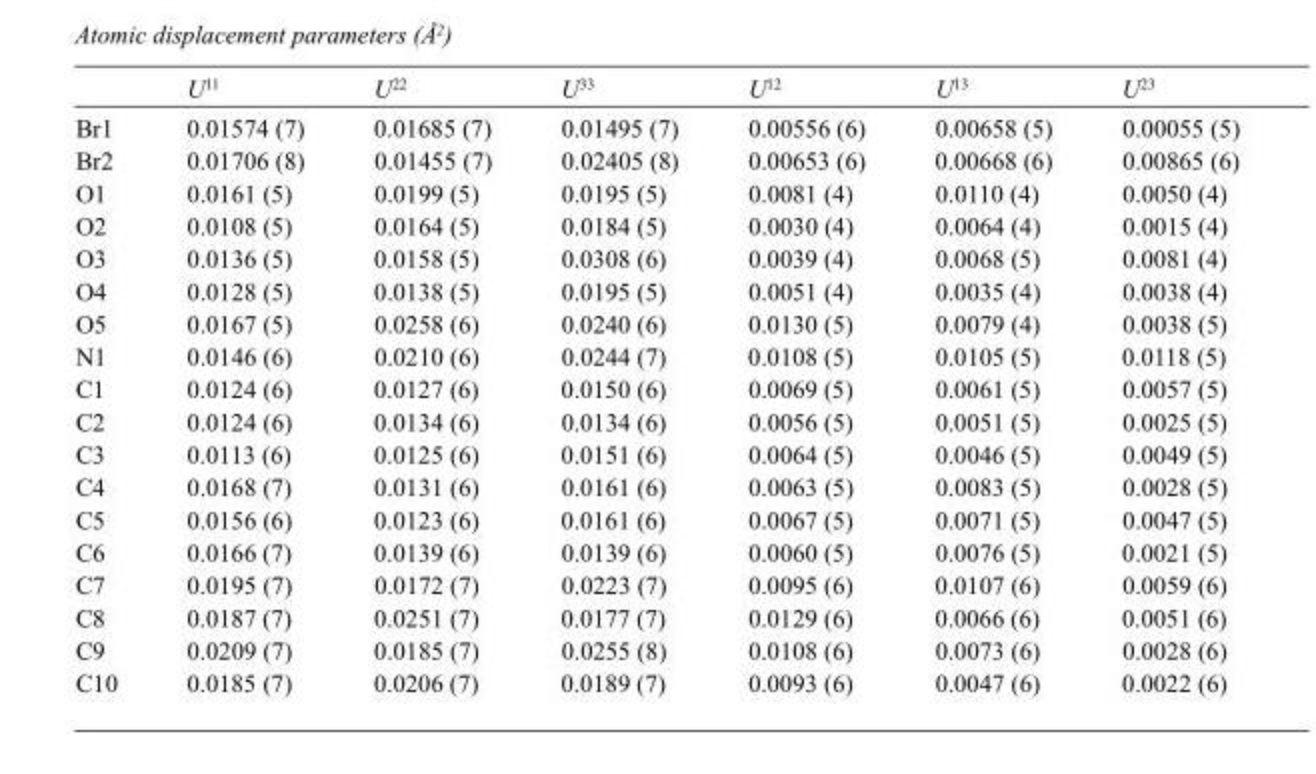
<table><thead><tr><td></td><td>U<sup>11</sup></td><td>U<sup>22</sup></td><td>U<sup>33</sup></td><td>U<sup>12</sup></td><td>U<sup>13</sup></td><td>U<sup>23</sup></td></tr></thead><tbody><tr><td>Br1</td><td>0.01574 (7)</td><td>0.01685 (7)</td><td>0.01495 (7)</td><td>0.00556 (6)</td><td>0.00658 (5)</td><td>0.00055 (5)</td></tr><tr><td>Br2</td><td>0.01706 (8)</td><td>0.01455 (7)</td><td>0.02405 (8)</td><td>0.00653 (6)</td><td>0.00668 (6)</td><td>0.00865 (6)</td></tr><tr><td>O1</td><td>0.0161 (5)</td><td>0.0199 (5)</td><td>0.0195 (5)</td><td>0.0081 (4)</td><td>0.0110 (4)</td><td>0.0050 (4)</td></tr><tr><td>O2</td><td>0.0108 (5)</td><td>0.0164 (5)</td><td>0.0184 (5)</td><td>0.0030 (4)</td><td>0.0064 (4)</td><td>0.0015 (4)</td></tr><tr><td>O3</td><td>0.0136 (5)</td><td>0.0158 (5)</td><td>0.0308 (6)</td><td>0.0039 (4)</td><td>0.0068 (5)</td><td>0.0081 (4)</td></tr><tr><td>O4</td><td>0.0128 (5)</td><td>0.0138 (5)</td><td>0.0195 (5)</td><td>0.0051 (4)</td><td>0.0035 (4)</td><td>0.0038 (4)</td></tr><tr><td>O5</td><td>0.0167 (5)</td><td>0.0258 (6)</td><td>0.0240 (6)</td><td>0.0130 (5)</td><td>0.0079 (4)</td><td>0.0038 (5)</td></tr><tr><td>N1</td><td>0.0146 (6)</td><td>0.0210 (6)</td><td>0.0244 (7)</td><td>0.0108 (5)</td><td>0.0105 (5)</td><td>0.0118 (5)</td></tr><tr><td>C1</td><td>0.0124 (6)</td><td>0.0127 (6)</td><td>0.0150 (6)</td><td>0.0069 (5)</td><td>0.0061 (5)</td><td>0.0057 (5)</td></tr><tr><td>C2</td><td>0.0124 (6)</td><td>0.0134 (6)</td><td>0.0134 (6)</td><td>0.0056 (5)</td><td>0.0051 (5)</td><td>0.0025 (5)</td></tr><tr><td>C3</td><td>0.0113 (6)</td><td>0.0125 (6)</td><td>0.0151 (6)</td><td>0.0064 (5)</td><td>0.0046 (5)</td><td>0.0049 (5)</td></tr><tr><td>C4</td><td>0.0168 (7)</td><td>0.0131 (6)</td><td>0.0161 (6)</td><td>0.0063 (5)</td><td>0.0083 (5)</td><td>0.0028 (5)</td></tr><tr><td>C5</td><td>0.0156 (6)</td><td>0.0123 (6)</td><td>0.0161 (6)</td><td>0.0067 (5)</td><td>0.0071 (5)</td><td>0.0047 (5)</td></tr><tr><td>C6</td><td>0.0166 (7)</td><td>0.0139 (6)</td><td>0.0139 (6)</td><td>0.0060 (5)</td><td>0.0076 (5)</td><td>0.0021 (5)</td></tr><tr><td>C7</td><td>0.0195 (7)</td><td>0.0172 (7)</td><td>0.0223 (7)</td><td>0.0095 (6)</td><td>0.0107 (6)</td><td>0.0059 (6)</td></tr><tr><td>C8</td><td>0.0187 (7)</td><td>0.0251 (7)</td><td>0.0177 (7)</td><td>0.0129 (6)</td><td>0.0066 (6)</td><td>0.0051 (6)</td></tr><tr><td>C9</td><td>0.0209 (7)</td><td>0.0185 (7)</td><td>0.0255 (8)</td><td>0.0108 (6)</td><td>0.0073 (6)</td><td>0.0028 (6)</td></tr><tr><td>C10</td><td>0.0185 (7)</td><td>0.0206 (7)</td><td>0.0189 (7)</td><td>0.0093 (6)</td><td>0.0047 (6)</td><td>0.0022 (6)</td></tr></tbody></table>